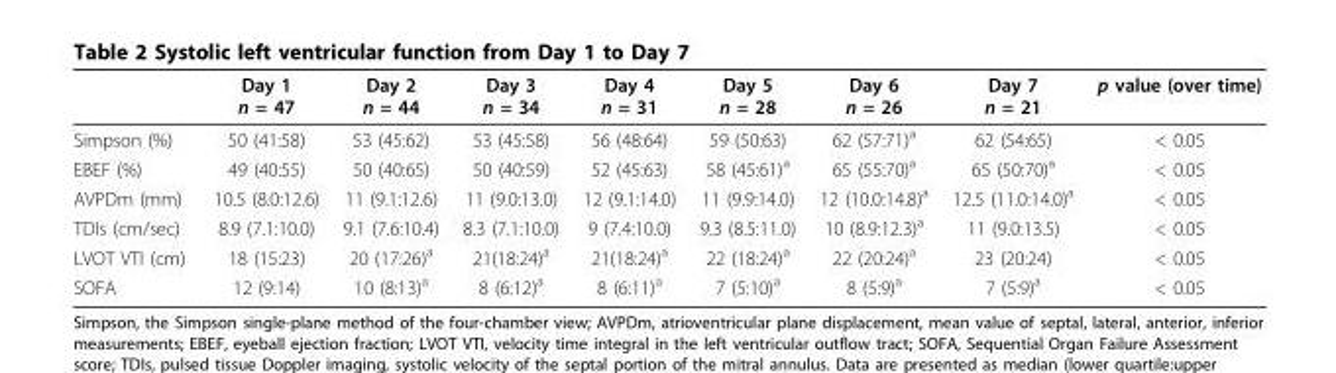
<table><thead><tr><td></td><td>Day 1 n = 47</td><td>Day 2 n = 44</td><td>Day 3 n = 34</td><td>Day 4 n = 31</td><td>Day 5 n = 28</td><td>Day 6 n = 26</td><td>Day 7 n = 21</td><td>p value (over time)</td></tr></thead><tbody><tr><td>Simpson (%)</td><td>50 (41:58)</td><td>53 (45:62)</td><td>53 (45:58)</td><td>56 (48:64)</td><td>59 (50:63)</td><td>62 (57:71)<sup>a</sup></td><td>62 (54:65)</td><td>&lt; 0.05</td></tr><tr><td>EBEF (%)</td><td>49 (40:55)</td><td>50 (40:65)</td><td>50 (40:59)</td><td>52 (45:63)</td><td>58 (45:61)<sup>a</sup></td><td>65 (55:70)<sup>a</sup></td><td>65 (50:70)<sup>a</sup></td><td>&lt; 0.05</td></tr><tr><td>AVPDm (mm)</td><td>10.5 (8.0:12.6)</td><td>11 (9.1:12.6)</td><td>11 (9.0:13.0)</td><td>12 (9.1:14.0)</td><td>11 (9.9:14.0)</td><td>12 (10.0:14.8)<sup>a</sup></td><td>12.5 (11.0:14.0)<sup>a</sup></td><td>&lt; 0.05</td></tr><tr><td>TDIs (cm/sec)</td><td>8.9 (7.1:10.0)</td><td>9.1 (7.6:10.4)</td><td>8.3 (7.1:10.0)</td><td>9 (7.4:10.0)</td><td>9.3 (8.5:11.0)</td><td>10 (8.9:12.3)<sup>a</sup></td><td>11 (9.0:13.5)</td><td>&lt; 0.05</td></tr><tr><td>LVOT VTI (cm)</td><td>18 (15:23)</td><td>20 (17:26)<sup>a</sup></td><td>21(18:24)<sup>a</sup></td><td>21(18:24)<sup>a</sup></td><td>22 (18:24)<sup>a</sup></td><td>22 (20:24)<sup>a</sup></td><td>23 (20:24)</td><td>&lt; 0.05</td></tr><tr><td>SOFA</td><td>12 (9:14)</td><td>10 (8:13)<sup>a</sup></td><td>8 (6:12)<sup>a</sup></td><td>8 (6:11)<sup>a</sup></td><td>7 (5:10)<sup>a</sup></td><td>8 (5:9)<sup>a</sup></td><td>7 (5:9)<sup>a</sup></td><td>&lt; 0.05</td></tr></tbody></table>